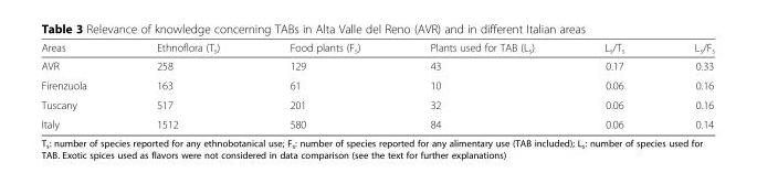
<table><thead><tr><td>Areas</td><td>Ethnoflora (T<sub>s</sub>)</td><td>Food plants (F<sub>s</sub>)</td><td>Plants used for TAB (L<sub>s</sub>)</td><td>L<sub>s</sub>/T<sub>s</sub></td><td>L<sub>s</sub>/F<sub>s</sub></td></tr></thead><tbody><tr><td>AVR</td><td>258</td><td>129</td><td>43</td><td>0.17</td><td>0.33</td></tr><tr><td>Firenzuola</td><td>163</td><td>61</td><td>10</td><td>0.06</td><td>0.16</td></tr><tr><td>Tuscany</td><td>517</td><td>201</td><td>32</td><td>0.06</td><td>0.16</td></tr><tr><td>Italy</td><td>1512</td><td>580</td><td>84</td><td>0.06</td><td>0.14</td></tr></tbody></table>